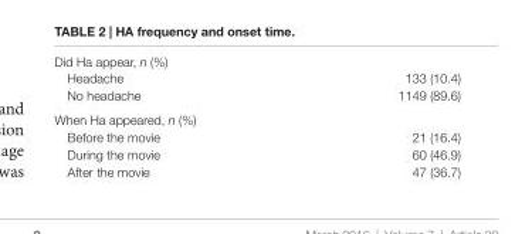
<table><tbody><tr><td colspan="2">Did Ha appear, n (%)</td></tr><tr><td>Headache</td><td>133 (10.4)</td></tr><tr><td>No headache</td><td>1149 (89.6)</td></tr><tr><td colspan="2">When Ha appeared, n (%)</td></tr><tr><td>Before the movie</td><td>21 (16.4)</td></tr><tr><td>During the movie</td><td>60 (46.9)</td></tr><tr><td>After the movie</td><td>47 (36.7)</td></tr></tbody></table>